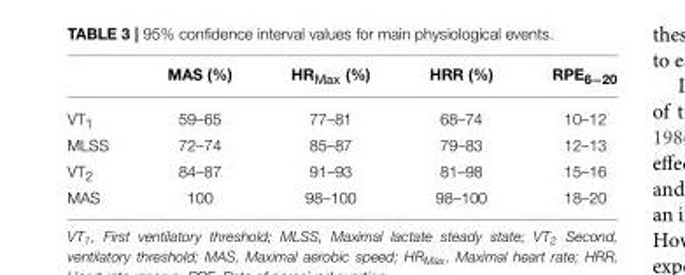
<table><thead><tr><td></td><td>MAS (%)</td><td>HR<sub>Max</sub> (%)</td><td>HRR (%)</td><td>RPE<sub>6−20</sub></td></tr></thead><tbody><tr><td>VT<sub>1</sub></td><td>59–65</td><td>77–81</td><td>68–74</td><td>10–12</td></tr><tr><td>MLSS</td><td>72–74</td><td>85–87</td><td>79–83</td><td>12–13</td></tr><tr><td>VT<sub>2</sub></td><td>84–87</td><td>91–93</td><td>81–98</td><td>15–16</td></tr><tr><td>MAS</td><td>100</td><td>98–100</td><td>98–100</td><td>18–20</td></tr></tbody></table>